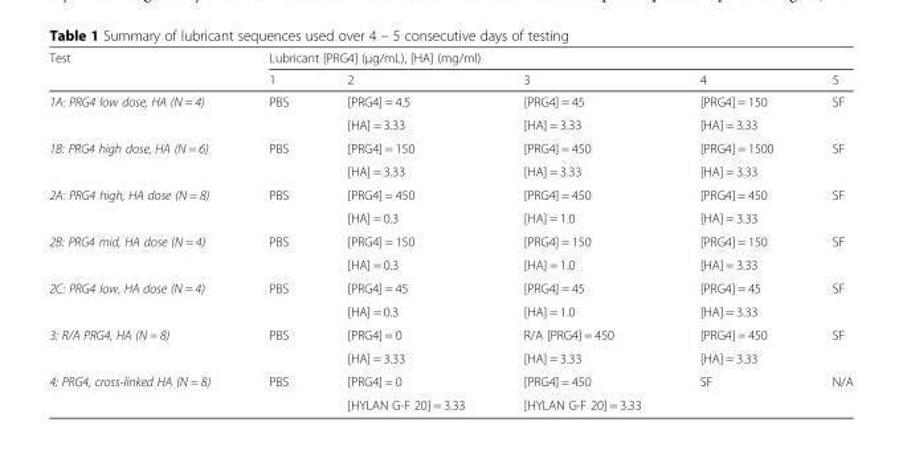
<table><thead><tr><td rowspan="2">Test</td><td colspan="5">Lubricant [PRG4] (μg/mL), [HA] (mg/ml)</td></tr><tr><td>1</td><td>2</td><td>3</td><td>4</td><td>5</td></tr></thead><tbody><tr><td rowspan="2">1A: PRG4 low dose, HA (N = 4)</td><td rowspan="2">PBS</td><td>[PRG4] = 4.5</td><td>[PRG4] = 45</td><td>[PRG4] = 150</td><td rowspan="2">SF</td></tr><tr><td>[HA] = 3.33</td><td>[HA] = 3.33</td><td>[HA] = 3.33</td></tr><tr><td rowspan="2">1B: PRG4 high dose, HA (N = 6)</td><td rowspan="2">PBS</td><td>[PRG4] = 150</td><td>[PRG4] = 450</td><td>[PRG4] = 1500</td><td rowspan="2">SF</td></tr><tr><td>[HA] = 3.33</td><td>[HA] = 3.33</td><td>[HA] = 3.33</td></tr><tr><td rowspan="2">2A: PRG4 high, HA dose (N = 8)</td><td rowspan="2">PBS</td><td>[PRG4] = 450</td><td>[PRG4] = 450</td><td>[PRG4] = 450</td><td rowspan="2">SF</td></tr><tr><td>[HA] = 0.3</td><td>[HA] = 1.0</td><td>[HA] = 3.33</td></tr><tr><td rowspan="2">2B: PRG4 mid, HA dose (N = 4)</td><td rowspan="2">PBS</td><td>[PRG4] = 150</td><td>[PRG4] = 150</td><td>[PRG4] = 150</td><td rowspan="2">SF</td></tr><tr><td>[HA] = 0.3</td><td>[HA] = 1.0</td><td>[HA] = 3.33</td></tr><tr><td rowspan="2">2C: PRG4 low, HA dose (N = 4)</td><td rowspan="2">PBS</td><td>[PRG4] = 45</td><td>[PRG4] = 45</td><td>[PRG4] = 45</td><td rowspan="2">SF</td></tr><tr><td>[HA] = 0.3</td><td>[HA] = 1.0</td><td>[HA] = 3.33</td></tr><tr><td rowspan="2">3: R/A PRG4, HA (N = 8)</td><td rowspan="2">PBS</td><td>[PRG4] = 0</td><td>R/A [PRG4] = 450</td><td>[PRG4] = 450</td><td rowspan="2">SF</td></tr><tr><td>[HA] = 3.33</td><td>[HA] = 3.33</td><td>[HA] = 3.33</td></tr><tr><td rowspan="2">4: PRG4, cross-linked HA (N = 8)</td><td rowspan="2">PBS</td><td>[PRG4] = 0</td><td>[PRG4] = 450</td><td>SF</td><td rowspan="2">N/A</td></tr><tr><td>[HYLAN G-F 20] = 3.33</td><td>[HYLAN G-F 20] = 3.33</td><td></td></tr></tbody></table>